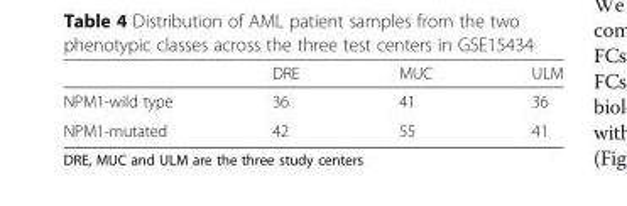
<table><thead><tr><td></td><td>DRE</td><td>MUC</td><td>ULM</td></tr></thead><tbody><tr><td>NPM1-wild type</td><td>36</td><td>41</td><td>36</td></tr><tr><td>NPM1-mutated</td><td>42</td><td>55</td><td>41</td></tr></tbody></table>